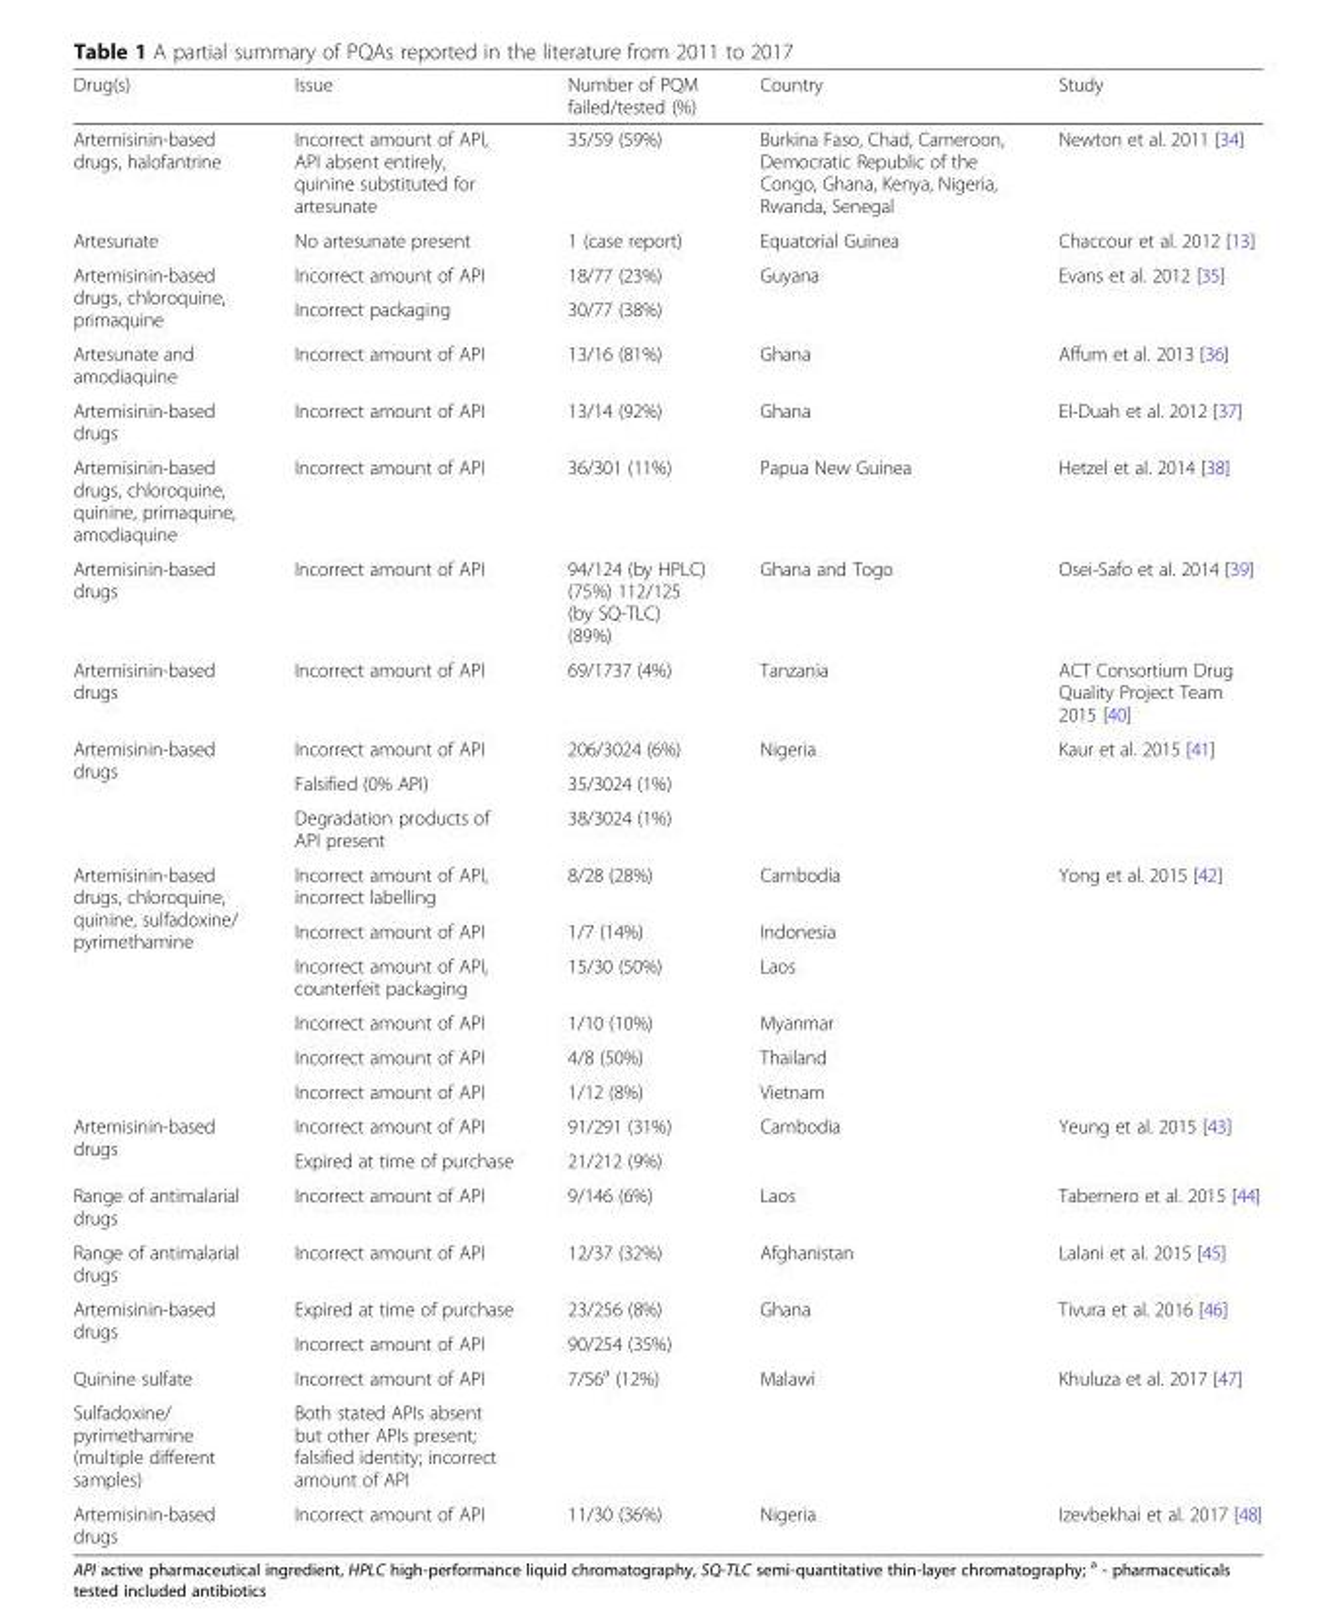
<table><thead><tr><td>Drug(s)</td><td>Issue</td><td>Number of PQM failed/tested (%)</td><td>Country</td><td>Study</td></tr></thead><tbody><tr><td>Artemisinin-based drugs, halofantrine</td><td>Incorrect amount of API, API absent entirely, quinine substituted for artesunate</td><td>35/59 (59%)</td><td>Burkina Faso, Chad, Cameroon, Democratic Republic of the Congo, Ghana, Kenya, Nigeria, Rwanda, Senegal</td><td>Newton et al. 2011 [34]</td></tr><tr><td>Artesunate</td><td>No artesunate present</td><td>1 (case report)</td><td>Equatorial Guinea</td><td>Chaccour et al. 2012 [13]</td></tr><tr><td rowspan="2">Artemisinin-based drugs, chloroquine, primaquine</td><td>Incorrect amount of API</td><td>18/77 (23%)</td><td rowspan="2">Guyana</td><td rowspan="2">Evans et al. 2012 [35]</td></tr><tr><td>Incorrect packaging</td><td>30/77 (38%)</td></tr><tr><td>Artesunate and amodiaquine</td><td>Incorrect amount of API</td><td>13/16 (81%)</td><td>Ghana</td><td>Affum et al. 2013 [36]</td></tr><tr><td>Artemisinin-based drugs</td><td>Incorrect amount of API</td><td>13/14 (92%)</td><td>Ghana</td><td>El-Duah et al. 2012 [37]</td></tr><tr><td>Artemisinin-based drugs, chloroquine, quinine, primaquine, amodiaquine</td><td>Incorrect amount of API</td><td>36/301 (11%)</td><td>Papua New Guinea</td><td>Hetzel et al. 2014 [38]</td></tr><tr><td>Artemisinin-based drugs</td><td>Incorrect amount of API</td><td>94/124 (by HPLC) (75%) 112/125 (by SQ-TLC) (89%)</td><td>Ghana and Togo</td><td>Osei-Safo et al. 2014 [39]</td></tr><tr><td>Artemisinin-based drugs</td><td>Incorrect amount of API</td><td>69/1737 (4%)</td><td>Tanzania</td><td>ACT Consortium Drug Quality Project Team 2015 [40]</td></tr><tr><td rowspan="3">Artemisinin-based drugs</td><td>Incorrect amount of API</td><td>206/3024 (6%)</td><td rowspan="3">Nigeria</td><td rowspan="3">Kaur et al. 2015 [41]</td></tr><tr><td>Falsified (0% API)</td><td>35/3024 (1%)</td></tr><tr><td>Degradation products of API present</td><td>38/3024 (1%)</td></tr><tr><td rowspan="6">Artemisinin-based drugs, chloroquine, quinine, sulfadoxine/ pyrimethamine</td><td>Incorrect amount of API, incorrect labelling</td><td>8/28 (28%)</td><td>Cambodia</td><td rowspan="6">Yong et al. 2015 [42]</td></tr><tr><td>Incorrect amount of API</td><td>1/7 (14%)</td><td>Indonesia</td></tr><tr><td>Incorrect amount of API, counterfeit packaging</td><td>15/30 (50%)</td><td>Laos</td></tr><tr><td>Incorrect amount of API</td><td>1/10 (10%)</td><td>Myanmar</td></tr><tr><td>Incorrect amount of API</td><td>4/8 (50%)</td><td>Thailand</td></tr><tr><td>Incorrect amount of API</td><td>1/12 (8%)</td><td>Vietnam</td></tr><tr><td rowspan="2">Artemisinin-based drugs</td><td>Incorrect amount of API</td><td>91/291 (31%)</td><td rowspan="2">Cambodia</td><td rowspan="2">Yeung et al. 2015 [43]</td></tr><tr><td>Expired at time of purchase</td><td>21/212 (9%)</td></tr><tr><td>Range of antimalarial drugs</td><td>Incorrect amount of API</td><td>9/146 (6%)</td><td>Laos</td><td>Tabernero et al. 2015 [44]</td></tr><tr><td>Range of antimalarial drugs</td><td>Incorrect amount of API</td><td>12/37 (32%)</td><td>Afghanistan</td><td>Lalani et al. 2015 [45]</td></tr><tr><td rowspan="2">Artemisinin-based drugs</td><td>Expired at time of purchase</td><td>23/256 (8%)</td><td rowspan="2">Ghana</td><td rowspan="2">Tivura et al. 2016 [46]</td></tr><tr><td>Incorrect amount of API</td><td>90/254 (35%)</td></tr><tr><td>Quinine sulfate</td><td>Incorrect amount of API</td><td rowspan="2">7/56<sup>a</sup> (12%)</td><td rowspan="2">Malawi</td><td rowspan="2">Khuluza et al. 2017 [47]</td></tr><tr><td>Sulfadoxine/ pyrimethamine (multiple different samples)</td><td>Both stated APIs absent but other APIs present; falsified identity; incorrect amount of API</td></tr><tr><td>Artemisinin-based drugs</td><td>Incorrect amount of API</td><td>11/30 (36%)</td><td>Nigeria</td><td>Izevbekhai et al. 2017 [48]</td></tr></tbody></table>